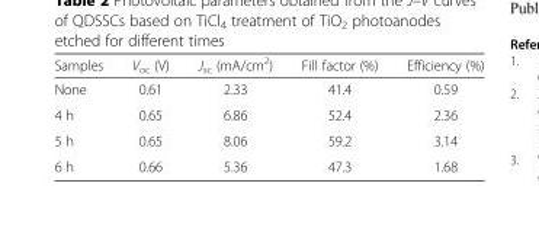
<table><thead><tr><td>Samples</td><td>V<sub>oc</sub> (V)</td><td>J<sub>sc</sub> (mA/cm<sup>2</sup>)</td><td>Fill factor (%)</td><td>Efficiency (%)</td></tr></thead><tbody><tr><td>None</td><td>0.61</td><td>2.33</td><td>41.4</td><td>0.59</td></tr><tr><td>4 h</td><td>0.65</td><td>6.86</td><td>52.4</td><td>2.36</td></tr><tr><td>5 h</td><td>0.65</td><td>8.06</td><td>59.2</td><td>3.14</td></tr><tr><td>6 h</td><td>0.66</td><td>5.36</td><td>47.3</td><td>1.68</td></tr></tbody></table>